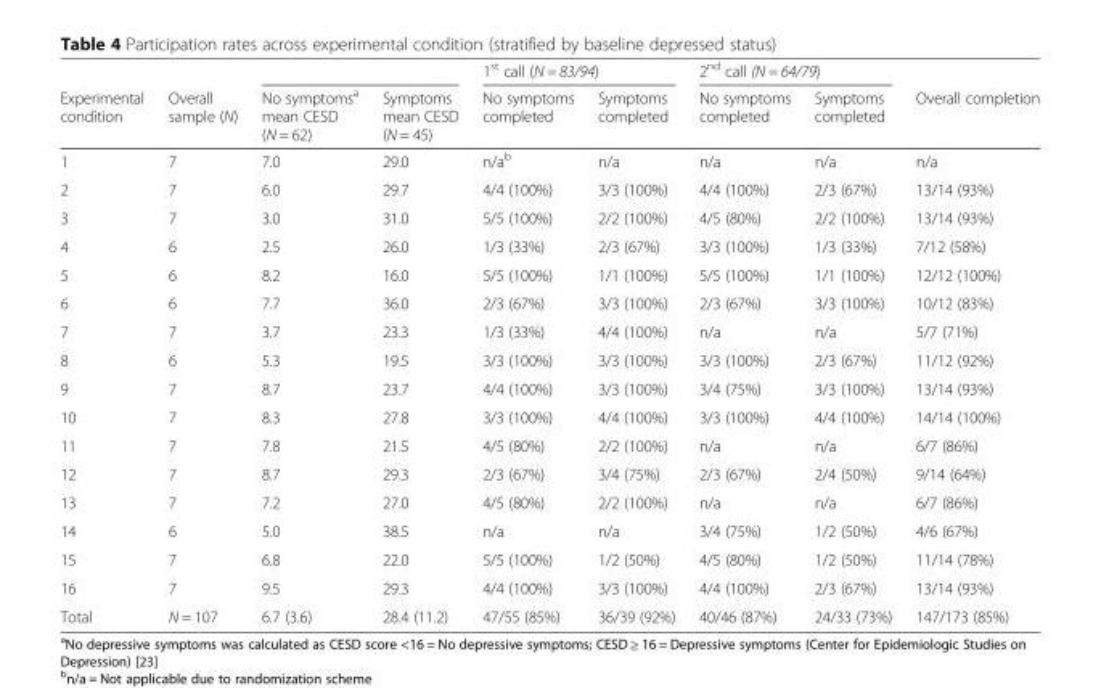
<table><thead><tr><td rowspan="2">Experimental condition</td><td rowspan="2">Overall sample (N)</td><td rowspan="2">No symptoms<sup>a</sup> mean CESD (N = 62)</td><td rowspan="2">Symptoms mean CESD (N = 45)</td><td colspan="2">1<sup>st</sup> call (N = 83/94)</td><td colspan="2">2<sup>nd</sup> call (N = 64/79)</td><td rowspan="2">Overall completion</td></tr><tr><td>No symptoms completed</td><td>Symptoms completed</td><td>No symptoms completed</td><td>Symptoms completed</td></tr></thead><tbody><tr><td>1</td><td>7</td><td>7.0</td><td>29.0</td><td>n/a<sup>b</sup></td><td>n/a</td><td>n/a</td><td>n/a</td><td>n/a</td></tr><tr><td>2</td><td>7</td><td>6.0</td><td>29.7</td><td>4/4 (100%)</td><td>3/3 (100%)</td><td>4/4 (100%)</td><td>2/3 (67%)</td><td>13/14 (93%)</td></tr><tr><td>3</td><td>7</td><td>3.0</td><td>31.0</td><td>5/5 (100%)</td><td>2/2 (100%)</td><td>4/5 (80%)</td><td>2/2 (100%)</td><td>13/14 (93%)</td></tr><tr><td>4</td><td>6</td><td>2.5</td><td>26.0</td><td>1/3 (33%)</td><td>2/3 (67%)</td><td>3/3 (100%)</td><td>1/3 (33%)</td><td>7/12 (58%)</td></tr><tr><td>5</td><td>6</td><td>8.2</td><td>16.0</td><td>5/5 (100%)</td><td>1/1 (100%)</td><td>5/5 (100%)</td><td>1/1 (100%)</td><td>12/12 (100%)</td></tr><tr><td>6</td><td>6</td><td>7.7</td><td>36.0</td><td>2/3 (67%)</td><td>3/3 (100%)</td><td>2/3 (67%)</td><td>3/3 (100%)</td><td>10/12 (83%)</td></tr><tr><td>7</td><td>7</td><td>3.7</td><td>23.3</td><td>1/3 (33%)</td><td>4/4 (100%)</td><td>n/a</td><td>n/a</td><td>5/7 (71%)</td></tr><tr><td>8</td><td>6</td><td>5.3</td><td>19.5</td><td>3/3 (100%)</td><td>3/3 (100%)</td><td>3/3 (100%)</td><td>2/3 (67%)</td><td>11/12 (92%)</td></tr><tr><td>9</td><td>7</td><td>8.7</td><td>23.7</td><td>4/4 (100%)</td><td>3/3 (100%)</td><td>3/4 (75%)</td><td>3/3 (100%)</td><td>13/14 (93%)</td></tr><tr><td>10</td><td>7</td><td>8.3</td><td>27.8</td><td>3/3 (100%)</td><td>4/4 (100%)</td><td>3/3 (100%)</td><td>4/4 (100%)</td><td>14/14 (100%)</td></tr><tr><td>11</td><td>7</td><td>7.8</td><td>21.5</td><td>4/5 (80%)</td><td>2/2 (100%)</td><td>n/a</td><td>n/a</td><td>6/7 (86%)</td></tr><tr><td>12</td><td>7</td><td>8.7</td><td>29.3</td><td>2/3 (67%)</td><td>3/4 (75%)</td><td>2/3 (67%)</td><td>2/4 (50%)</td><td>9/14 (64%)</td></tr><tr><td>13</td><td>7</td><td>7.2</td><td>27.0</td><td>4/5 (80%)</td><td>2/2 (100%)</td><td>n/a</td><td>n/a</td><td>6/7 (86%)</td></tr><tr><td>14</td><td>6</td><td>5.0</td><td>38.5</td><td>n/a</td><td>n/a</td><td>3/4 (75%)</td><td>1/2 (50%)</td><td>4/6 (67%)</td></tr><tr><td>15</td><td>7</td><td>6.8</td><td>22.0</td><td>5/5 (100%)</td><td>1/2 (50%)</td><td>4/5 (80%)</td><td>1/2 (50%)</td><td>11/14 (78%)</td></tr><tr><td>16</td><td>7</td><td>9.5</td><td>29.3</td><td>4/4 (100%)</td><td>3/3 (100%)</td><td>4/4 (100%)</td><td>2/3 (67%)</td><td>13/14 (93%)</td></tr><tr><td>Total</td><td>N = 107</td><td>6.7 (3.6)</td><td>28.4 (11.2)</td><td>47/55 (85%)</td><td>36/39 (92%)</td><td>40/46 (87%)</td><td>24/33 (73%)</td><td>147/173 (85%)</td></tr></tbody></table>